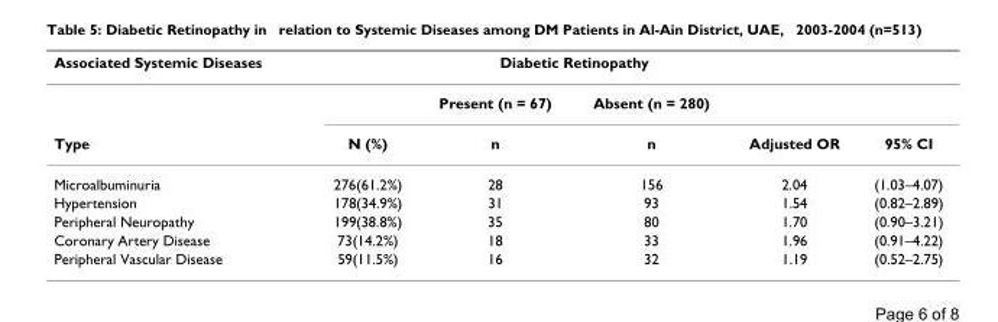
<table><thead><tr><td rowspan="2">Associated Systemic Diseases</td><td rowspan="2"></td><td colspan="2">Diabetic Retinopathy</td><td rowspan="2"></td><td rowspan="2"></td></tr><tr><td>Present (n = 67)</td><td>Absent (n = 280)</td></tr></thead><tbody><tr><td>Type</td><td>N (%)</td><td>n</td><td>n</td><td>Adjusted OR</td><td>95% CI</td></tr><tr><td>Microalbuminuria</td><td>276(61.2%)</td><td>28</td><td>156</td><td>2.04</td><td>(1.03–4.07)</td></tr><tr><td>Hypertension</td><td>178(34.9%)</td><td>31</td><td>93</td><td>1.54</td><td>(0.82–2.89)</td></tr><tr><td>Peripheral Neuropathy</td><td>199(38.8%)</td><td>35</td><td>80</td><td>1.70</td><td>(0.90–3.21)</td></tr><tr><td>Coronary Artery Disease</td><td>73(14.2%)</td><td>18</td><td>33</td><td>1.96</td><td>(0.91–4.22)</td></tr><tr><td>Peripheral Vascular Disease</td><td>59(11.5%)</td><td>16</td><td>32</td><td>1.19</td><td>(0.52–2.75)</td></tr></tbody></table>